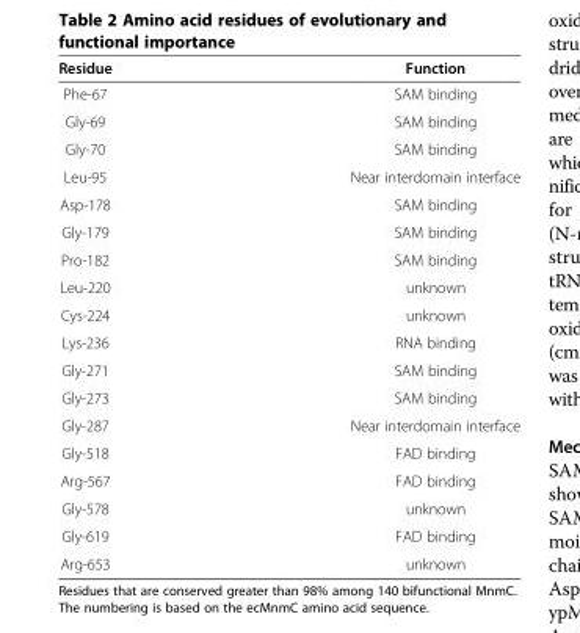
<table><thead><tr><td>Residue</td><td>Function</td></tr></thead><tbody><tr><td>Phe-67</td><td>SAM binding</td></tr><tr><td>Gly-69</td><td>SAM binding</td></tr><tr><td>Gly-70</td><td>SAM binding</td></tr><tr><td>Leu-95</td><td>Near interdomain interface</td></tr><tr><td>Asp-178</td><td>SAM binding</td></tr><tr><td>Gly-179</td><td>SAM binding</td></tr><tr><td>Pro-182</td><td>SAM binding</td></tr><tr><td>Leu-220</td><td>unknown</td></tr><tr><td>Cys-224</td><td>unknown</td></tr><tr><td>Lys-236</td><td>RNA binding</td></tr><tr><td>Gly-271</td><td>SAM binding</td></tr><tr><td>Gly-273</td><td>SAM binding</td></tr><tr><td>Gly-287</td><td>Near interdomain interface</td></tr><tr><td>Gly-518</td><td>FAD binding</td></tr><tr><td>Arg-567</td><td>FAD binding</td></tr><tr><td>Gly-578</td><td>unknown</td></tr><tr><td>Gly-619</td><td>FAD binding</td></tr><tr><td>Arg-653</td><td>unknown</td></tr></tbody></table>